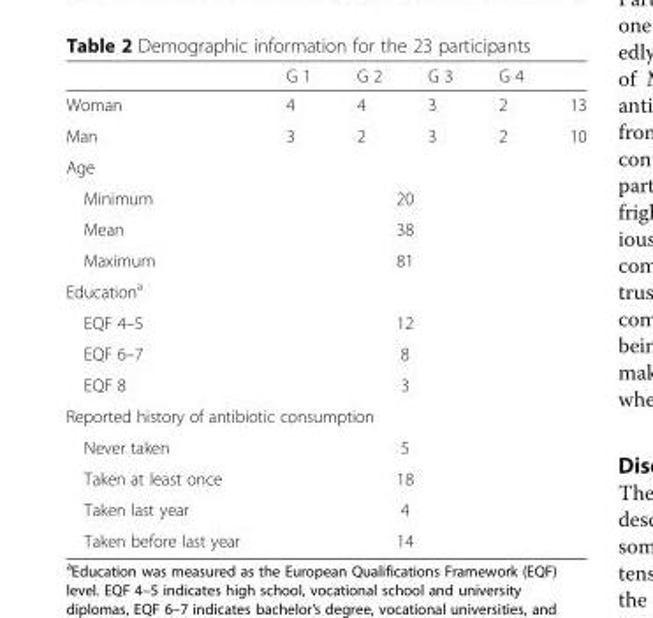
<table><thead><tr><td></td><td>G 1</td><td>G 2</td><td>G 3</td><td>G 4</td><td></td></tr></thead><tbody><tr><td>Woman</td><td>4</td><td>4</td><td>3</td><td>2</td><td>13</td></tr><tr><td>Man</td><td>3</td><td>2</td><td>3</td><td>2</td><td>10</td></tr><tr><td colspan="6">Age</td></tr><tr><td>Minimum</td><td colspan="4">20</td><td></td></tr><tr><td>Mean</td><td colspan="4">38</td><td></td></tr><tr><td>Maximum</td><td colspan="4">81</td><td></td></tr><tr><td colspan="6">Education<sup>a</sup></td></tr><tr><td>EQF 4–5</td><td colspan="4">12</td><td></td></tr><tr><td>EQF 6–7</td><td colspan="4">8</td><td></td></tr><tr><td>EQF 8</td><td colspan="4">3</td><td></td></tr><tr><td colspan="6">Reported history of antibiotic consumption</td></tr><tr><td>Never taken</td><td colspan="4">5</td><td></td></tr><tr><td>Taken at least once</td><td colspan="4">18</td><td></td></tr><tr><td>Taken last year</td><td colspan="4">4</td><td></td></tr><tr><td>Taken before last year</td><td colspan="4">14</td><td></td></tr></tbody></table>